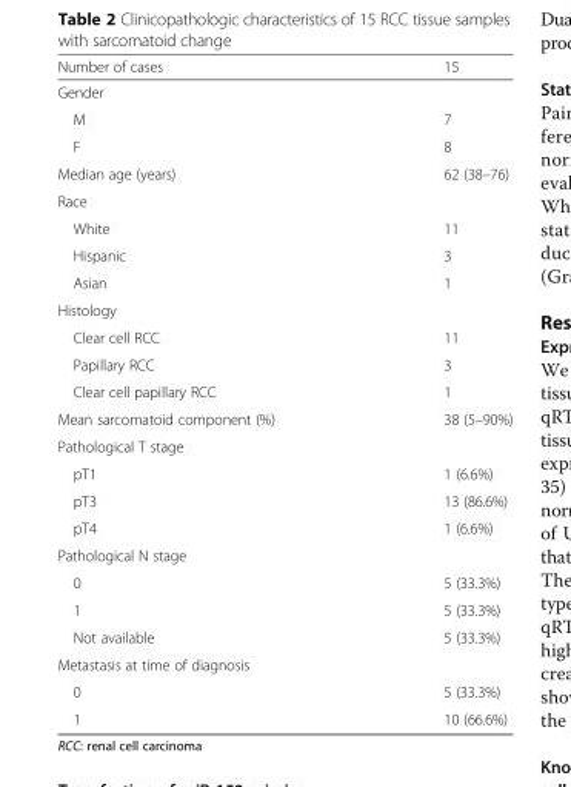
<table><thead><tr><td>Number of cases</td><td>15</td></tr></thead><tbody><tr><td colspan="2">Gender</td></tr><tr><td>M</td><td>7</td></tr><tr><td>F</td><td>8</td></tr><tr><td>Median age (years)</td><td>62 (38–76)</td></tr><tr><td colspan="2">Race</td></tr><tr><td>White</td><td>11</td></tr><tr><td>Hispanic</td><td>3</td></tr><tr><td>Asian</td><td>1</td></tr><tr><td colspan="2">Histology</td></tr><tr><td>Clear cell RCC</td><td>11</td></tr><tr><td>Papillary RCC</td><td>3</td></tr><tr><td>Clear cell papillary RCC</td><td>1</td></tr><tr><td>Mean sarcomatoid component (%)</td><td>38 (5–90%)</td></tr><tr><td colspan="2">Pathological T stage</td></tr><tr><td>pT1</td><td>1 (6.6%)</td></tr><tr><td>pT3</td><td>13 (86.6%)</td></tr><tr><td>pT4</td><td>1 (6.6%)</td></tr><tr><td colspan="2">Pathological N stage</td></tr><tr><td>0</td><td>5 (33.3%)</td></tr><tr><td>1</td><td>5 (33.3%)</td></tr><tr><td>Not available</td><td>5 (33.3%)</td></tr><tr><td colspan="2">Metastasis at time of diagnosis</td></tr><tr><td>0</td><td>5 (33.3%)</td></tr><tr><td>1</td><td>10 (66.6%)</td></tr></tbody></table>